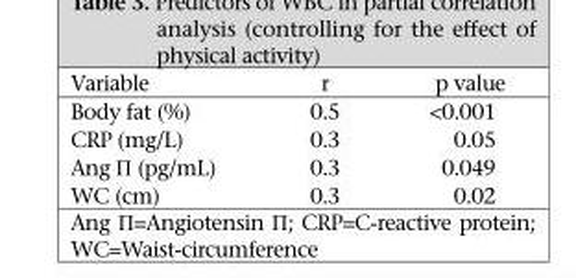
<table><thead><tr><td>Variable</td><td>r</td><td>p value</td></tr></thead><tbody><tr><td>Body fat (%)</td><td>0.5</td><td>&lt;0.001</td></tr><tr><td>CRP (mg/L)</td><td>0.3</td><td>0.05</td></tr><tr><td>Ang Π (pg/mL)</td><td>0.3</td><td>0.049</td></tr><tr><td>WC (cm)</td><td>0.3</td><td>0.02</td></tr></tbody></table>